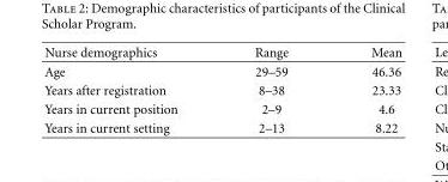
<table><thead><tr><td>Nurse demographics</td><td>Range</td><td>Mean</td></tr></thead><tbody><tr><td>Age</td><td>29–59</td><td>46.36</td></tr><tr><td>Years after registration</td><td>8–38</td><td>23.33</td></tr><tr><td>Years in current position</td><td>2–9</td><td>4.6</td></tr><tr><td>Years in current setting</td><td>2–13</td><td>8.22</td></tr></tbody></table>